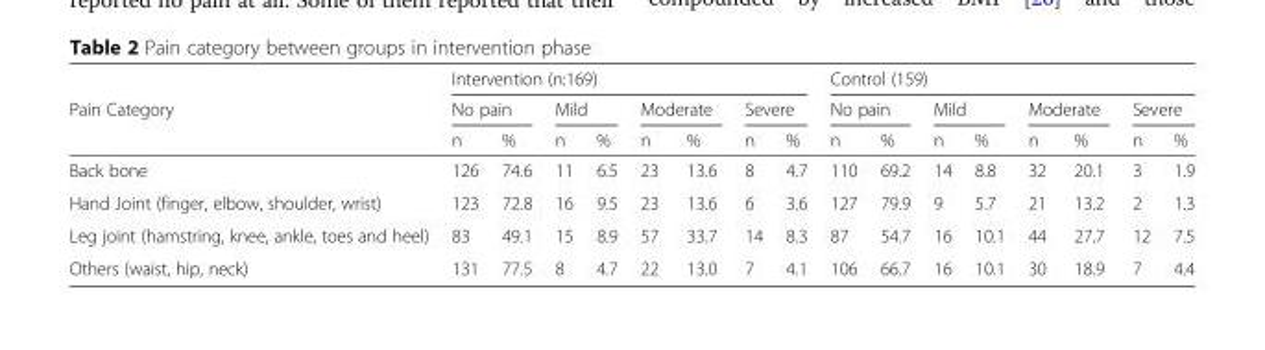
<table><thead><tr><td rowspan="3">Pain Category</td><td colspan="8">Intervention (n:169)</td><td colspan="8">Control (159)</td></tr><tr><td colspan="2">No pain</td><td colspan="2">Mild</td><td colspan="2">Moderate</td><td colspan="2">Severe</td><td colspan="2">No pain</td><td colspan="2">Mild</td><td colspan="2">Moderate</td><td colspan="2">Severe</td></tr><tr><td>n</td><td>%</td><td>n</td><td>%</td><td>n</td><td>%</td><td>n</td><td>%</td><td>n</td><td>%</td><td>n</td><td>%</td><td>n</td><td>%</td><td>n</td><td>%</td></tr></thead><tbody><tr><td>Back bone</td><td>126</td><td>74.6</td><td>11</td><td>6.5</td><td>23</td><td>13.6</td><td>8</td><td>4.7</td><td>110</td><td>69.2</td><td>14</td><td>8.8</td><td>32</td><td>20.1</td><td>3</td><td>1.9</td></tr><tr><td>Hand Joint (finger, elbow, shoulder, wrist)</td><td>123</td><td>72.8</td><td>16</td><td>9.5</td><td>23</td><td>13.6</td><td>6</td><td>3.6</td><td>127</td><td>79.9</td><td>9</td><td>5.7</td><td>21</td><td>13.2</td><td>2</td><td>1.3</td></tr><tr><td>Leg joint (hamstring, knee, ankle, toes and heel)</td><td>83</td><td>49.1</td><td>15</td><td>8.9</td><td>57</td><td>33.7</td><td>14</td><td>8.3</td><td>87</td><td>54.7</td><td>16</td><td>10.1</td><td>44</td><td>27.7</td><td>12</td><td>7.5</td></tr><tr><td>Others (waist, hip, neck)</td><td>131</td><td>77.5</td><td>8</td><td>4.7</td><td>22</td><td>13.0</td><td>7</td><td>4.1</td><td>106</td><td>66.7</td><td>16</td><td>10.1</td><td>30</td><td>18.9</td><td>7</td><td>4.4</td></tr></tbody></table>